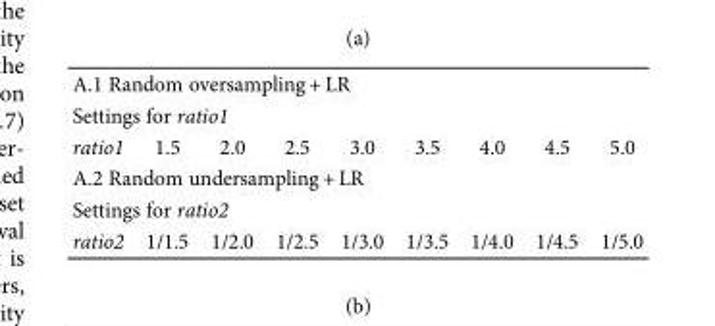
<table><tbody><tr><td colspan="9">A.1 Random oversampling + LR</td></tr><tr><td colspan="9">Settings for ratio1</td></tr><tr><td>ratio1</td><td>1.5</td><td>2.0</td><td>2.5</td><td>3.0</td><td>3.5</td><td>4.0</td><td>4.5</td><td>5.0</td></tr><tr><td colspan="9">A.2 Random undersampling + LR</td></tr><tr><td colspan="9">Settings for ratio2</td></tr><tr><td>ratio2</td><td>1/1.5</td><td>1/2.0</td><td>1/2.5</td><td>1/3.0</td><td>1/3.5</td><td>1/4.0</td><td>1/4.5</td><td>1/5.0</td></tr></tbody></table>